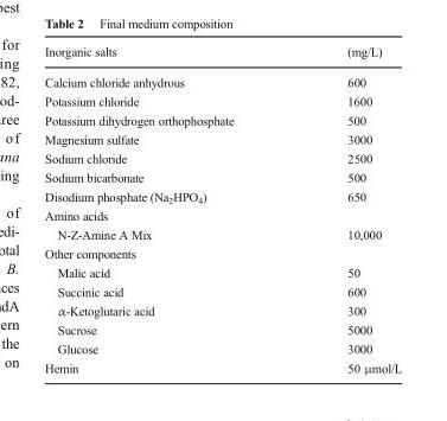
<table><thead><tr><td>Inorganic salts</td><td>(mg/L)</td></tr></thead><tbody><tr><td>Calcium chloride anhydrous</td><td>600</td></tr><tr><td>Potassium chloride</td><td>1600</td></tr><tr><td>Potassium dihydrogen orthophosphate</td><td>500</td></tr><tr><td>Magnesium sulfate</td><td>3000</td></tr><tr><td>Sodium chloride</td><td>2500</td></tr><tr><td>Sodium bicarbonate</td><td>500</td></tr><tr><td>Disodium phosphate (Na<sub>2</sub>HPO<sub>4</sub>)</td><td>650</td></tr><tr><td colspan="2">Amino acids</td></tr><tr><td>N-Z-Amine A Mix</td><td>10,000</td></tr><tr><td colspan="2">Other components</td></tr><tr><td>Malic acid</td><td>50</td></tr><tr><td>Succinic acid</td><td>600</td></tr><tr><td>α-Ketoglutaric acid</td><td>300</td></tr><tr><td>Sucrose</td><td>5000</td></tr><tr><td>Glucose</td><td>3000</td></tr><tr><td>Hemin</td><td>50 μmol/L</td></tr></tbody></table>